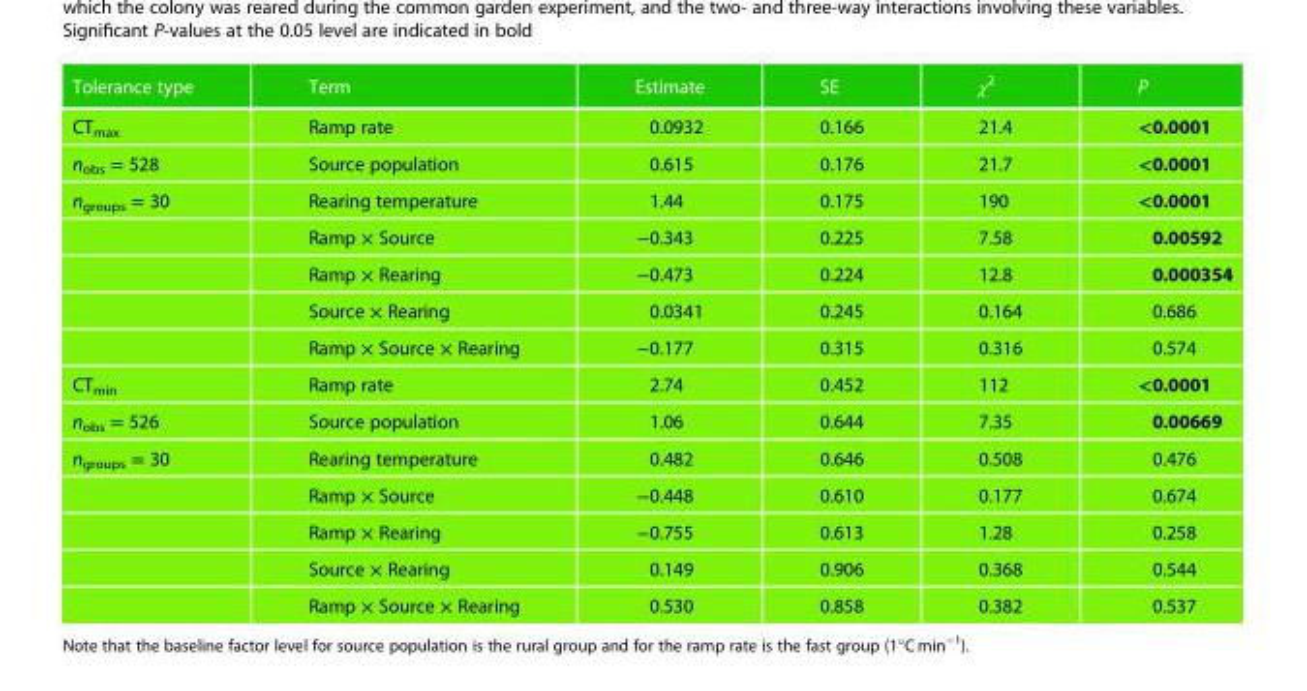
<table><thead><tr><td>Tolerance type</td><td>Term</td><td>Estimate</td><td>SE</td><td>χ<sup>2</sup></td><td>P</td></tr></thead><tbody><tr><td>CT<sub>max</sub></td><td>Ramp rate</td><td>0.0932</td><td>0.166</td><td>21.4</td><td>&lt;0.0001</td></tr><tr><td>n<sub>obs</sub> = 528</td><td>Source population</td><td>0.615</td><td>0.176</td><td>21.7</td><td>&lt;0.0001</td></tr><tr><td rowspan="5">n<sub>groups</sub> = 30</td><td>Rearing temperature</td><td>1.44</td><td>0.175</td><td>190</td><td>&lt;0.0001</td></tr><tr><td>Ramp × Source</td><td>−0.343</td><td>0.225</td><td>7.58</td><td>0.00592</td></tr><tr><td>Ramp × Rearing</td><td>−0.473</td><td>0.224</td><td>12.8</td><td>0.000354</td></tr><tr><td>Source × Rearing</td><td>0.0341</td><td>0.245</td><td>0.164</td><td>0.686</td></tr><tr><td>Ramp × Source × Rearing</td><td>−0.177</td><td>0.315</td><td>0.316</td><td>0.574</td></tr><tr><td>CT<sub>min</sub></td><td>Ramp rate</td><td>2.74</td><td>0.452</td><td>112</td><td>&lt;0.0001</td></tr><tr><td>n<sub>obs</sub> = 526</td><td>Source population</td><td>1.06</td><td>0.644</td><td>7.35</td><td>0.00669</td></tr><tr><td rowspan="5">n<sub>groups</sub> = 30</td><td>Rearing temperature</td><td>0.482</td><td>0.646</td><td>0.508</td><td>0.476</td></tr><tr><td>Ramp × Source</td><td>−0.448</td><td>0.610</td><td>0.177</td><td>0.674</td></tr><tr><td>Ramp × Rearing</td><td>−0.755</td><td>0.613</td><td>1.28</td><td>0.258</td></tr><tr><td>Source × Rearing</td><td>0.149</td><td>0.906</td><td>0.368</td><td>0.544</td></tr><tr><td>Ramp × Source × Rearing</td><td>0.530</td><td>0.858</td><td>0.382</td><td>0.537</td></tr></tbody></table>